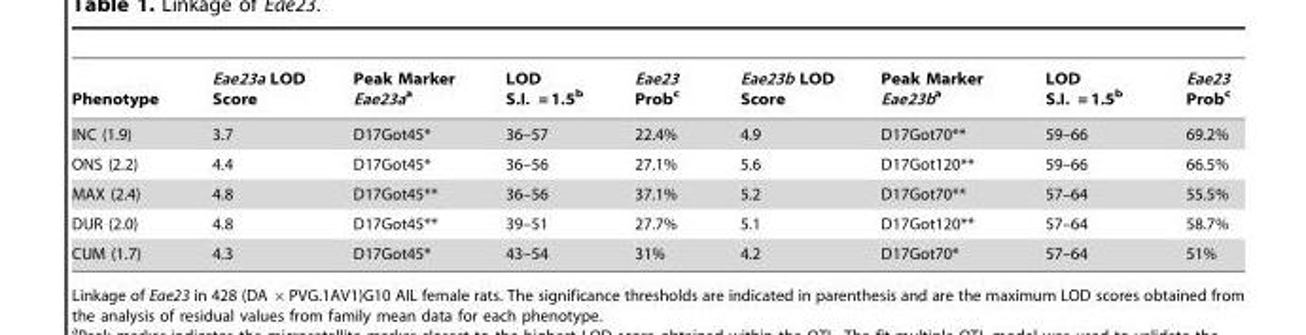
<table><thead><tr><td>Phenotype</td><td>Eae23a LOD Score</td><td>Peak Marker Eae23aa</td><td>LOD S.I. = 1.5<sup>b</sup></td><td>Eae23 Prob<sup>c</sup></td><td>Eae23b LOD Score</td><td>Peak Marker Eae23ba</td><td>LOD S.I. = 1.5<sup>b</sup></td><td>Eae23 Prob<sup>c</sup></td></tr></thead><tbody><tr><td>INC (1.9)</td><td>3.7</td><td>D17Got45*</td><td>36–57</td><td>22.4%</td><td>4.9</td><td>D17Got70**</td><td>59–66</td><td>69.2%</td></tr><tr><td>ONS (2.2)</td><td>4.4</td><td>D17Got45*</td><td>36–56</td><td>27.1%</td><td>5.6</td><td>D17Got120**</td><td>59–66</td><td>66.5%</td></tr><tr><td>MAX (2.4)</td><td>4.8</td><td>D17Got45**</td><td>36–56</td><td>37.1%</td><td>5.2</td><td>D17Got70**</td><td>57–64</td><td>55.5%</td></tr><tr><td>DUR (2.0)</td><td>4.8</td><td>D17Got45**</td><td>39–51</td><td>27.7%</td><td>5.1</td><td>D17Got120**</td><td>57–64</td><td>58.7%</td></tr><tr><td>CUM (1.7)</td><td>4.3</td><td>D17Got45*</td><td>43–54</td><td>31%</td><td>4.2</td><td>D17Got70*</td><td>57–64</td><td>51%</td></tr></tbody></table>